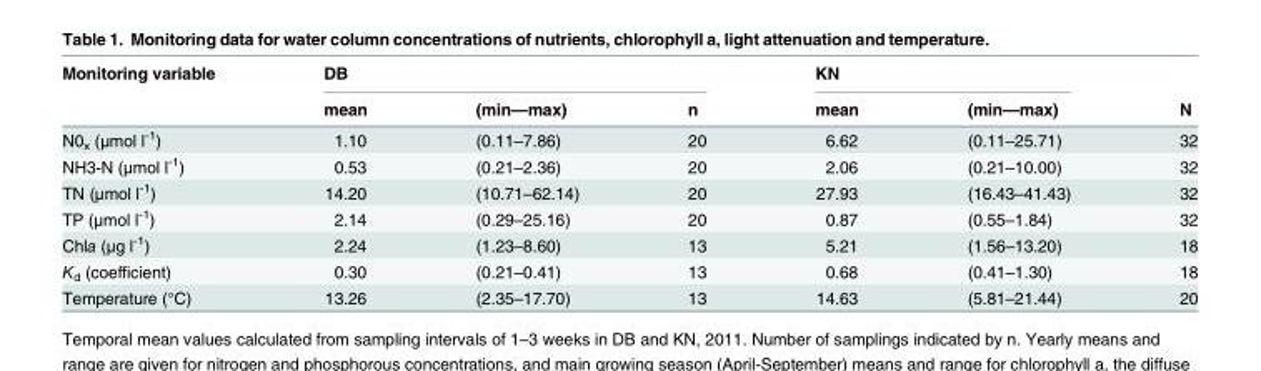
<table><thead><tr><td rowspan="2">Monitoring variable</td><td colspan="3">DB</td><td colspan="2">KN</td><td rowspan="2">N</td></tr><tr><td>mean</td><td>(min—max)</td><td>n</td><td>mean</td><td>(min—max)</td></tr></thead><tbody><tr><td>N0<sub>x</sub> (μmol l<sup>-1</sup>)</td><td>1.10</td><td>(0.11–7.86)</td><td>20</td><td>6.62</td><td>(0.11–25.71)</td><td>32</td></tr><tr><td>NH3-N (μmol l<sup>-1</sup>)</td><td>0.53</td><td>(0.21–2.36)</td><td>20</td><td>2.06</td><td>(0.21–10.00)</td><td>32</td></tr><tr><td>TN (μmol l<sup>-1</sup>)</td><td>14.20</td><td>(10.71–62.14)</td><td>20</td><td>27.93</td><td>(16.43–41.43)</td><td>32</td></tr><tr><td>TP (μmol l<sup>-1</sup>)</td><td>2.14</td><td>(0.29–25.16)</td><td>20</td><td>0.87</td><td>(0.55–1.84)</td><td>32</td></tr><tr><td>Chla (μg l<sup>-1</sup>)</td><td>2.24</td><td>(1.23–8.60)</td><td>13</td><td>5.21</td><td>(1.56–13.20)</td><td>18</td></tr><tr><td>K<sub>d</sub> (coefficient)</td><td>0.30</td><td>(0.21–0.41)</td><td>13</td><td>0.68</td><td>(0.41–1.30)</td><td>18</td></tr><tr><td>Temperature (°C)</td><td>13.26</td><td>(2.35–17.70)</td><td>13</td><td>14.63</td><td>(5.81–21.44)</td><td>20</td></tr></tbody></table>